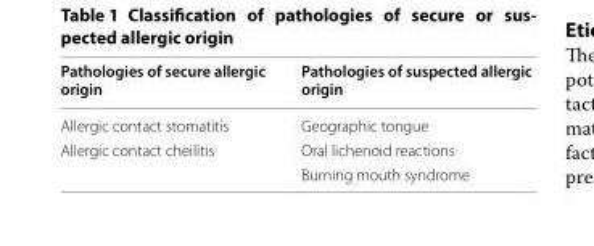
<table><thead><tr><td>Pathologies of secure allergic origin</td><td>Pathologies of suspected allergic origin</td></tr></thead><tbody><tr><td>Allergic contact stomatitis</td><td>Geographic tongue</td></tr><tr><td rowspan="2">Allergic contact cheilitis</td><td>Oral lichenoid reactions</td></tr><tr><td>Burning mouth syndrome</td></tr></tbody></table>